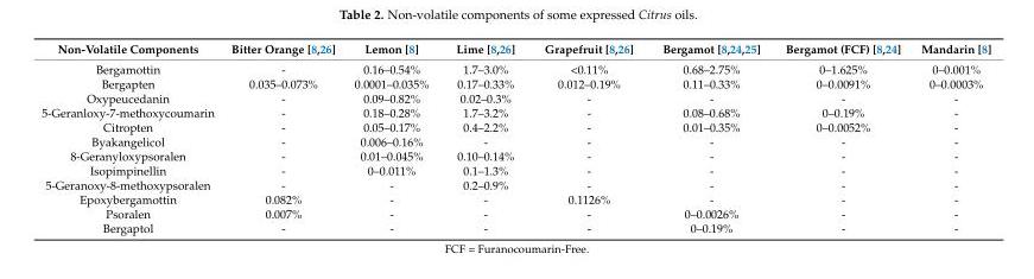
<table><thead><tr><td>Non-Volatile Components</td><td>Bitter Orange [8,26]</td><td>Lemon [8]</td><td>Lime [8,26]</td><td>Grapefruit [8,26]</td><td>Bergamot [8,24,25]</td><td>Bergamot (FCF) [8,24]</td><td>Mandarin [8]</td></tr></thead><tbody><tr><td>Bergamottin</td><td>-</td><td>0.16–0.54%</td><td>1.7–3.0%</td><td>&lt;0.11%</td><td>0.68–2.75%</td><td>0–1.625%</td><td>0–0.001%</td></tr><tr><td>Bergapten</td><td>0.035–0.073%</td><td>0.0001–0.035%</td><td>0.17–0.33%</td><td>0.012–0.19%</td><td>0.11–0.33%</td><td>0–0.0091%</td><td>0–0.0003%</td></tr><tr><td>Oxypeucedanin</td><td>-</td><td>0.09–0.82%</td><td>0.02–0.3%</td><td>-</td><td>-</td><td>-</td><td>-</td></tr><tr><td>5-Geranloxy-7-methoxycoumarin</td><td>-</td><td>0.18–0.28%</td><td>1.7–3.2%</td><td>-</td><td>0.08–0.68%</td><td>0–0.19%</td><td>-</td></tr><tr><td>Citropten</td><td>-</td><td>0.05–0.17%</td><td>0.4–2.2%</td><td>-</td><td>0.01–0.35%</td><td>0–0.0052%</td><td>-</td></tr><tr><td>Byakangelicol</td><td>-</td><td>0.006–0.16%</td><td>-</td><td>-</td><td>-</td><td>-</td><td>-</td></tr><tr><td>8-Geranyloxypsoralen</td><td>-</td><td>0.01–0.045%</td><td>0.10–0.14%</td><td>-</td><td>-</td><td>-</td><td>-</td></tr><tr><td>Isopimpinellin</td><td>-</td><td>0–0.011%</td><td>0.1–1.3%</td><td>-</td><td>-</td><td>-</td><td>-</td></tr><tr><td>5-Geranoxy-8-methoxypsoralen</td><td>-</td><td>-</td><td>0.2–0.9%</td><td>-</td><td>-</td><td>-</td><td>-</td></tr><tr><td>Epoxybergamottin</td><td>0.082%</td><td>-</td><td>-</td><td>0.1126%</td><td>-</td><td>-</td><td>-</td></tr><tr><td>Psoralen</td><td>0.007%</td><td>-</td><td>-</td><td>-</td><td>0–0.0026%</td><td>-</td><td>-</td></tr><tr><td>Bergaptol</td><td>-</td><td>-</td><td>-</td><td>-</td><td>0–0.19%</td><td>-</td><td>-</td></tr></tbody></table>